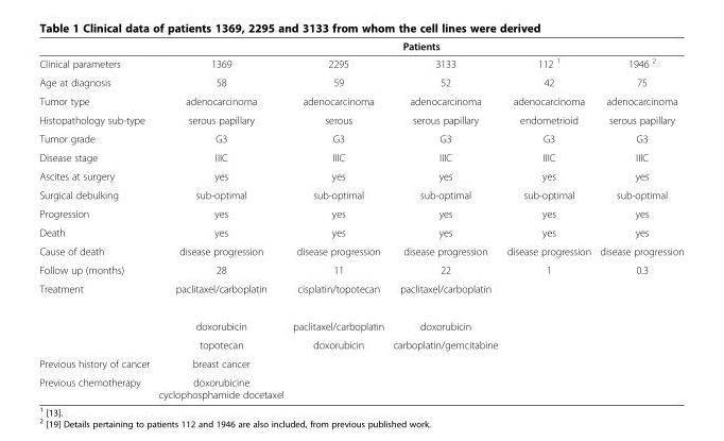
<table><thead><tr><td rowspan="2">Clinical parameters</td><td colspan="5">Patients</td></tr><tr><td>1369</td><td>2295</td><td>3133</td><td>112 <sup>1</sup></td><td>1946 <sup>2</sup></td></tr></thead><tbody><tr><td>Age at diagnosis</td><td>58</td><td>59</td><td>52</td><td>42</td><td>75</td></tr><tr><td>Tumor type</td><td>adenocarcinoma</td><td>adenocarcinoma</td><td>adenocarcinoma</td><td>adenocarcinoma</td><td>adenocarcinoma</td></tr><tr><td>Histopathology sub-type</td><td>serous papillary</td><td>serous</td><td>serous papillary</td><td>endometrioid</td><td>serous papillary</td></tr><tr><td>Tumor grade</td><td>G3</td><td>G3</td><td>G3</td><td>G3</td><td>G3</td></tr><tr><td>Disease stage</td><td>IIIC</td><td>IIIC</td><td>IIIC</td><td>IIIC</td><td>IIIC</td></tr><tr><td>Ascites at surgery</td><td>yes</td><td>yes</td><td>yes</td><td>yes</td><td>yes</td></tr><tr><td>Surgical debulking</td><td>sub-optimal</td><td>sub-optimal</td><td>sub-optimal</td><td>sub-optimal</td><td>sub-optimal</td></tr><tr><td>Progression</td><td>yes</td><td>yes</td><td>yes</td><td>yes</td><td>yes</td></tr><tr><td>Death</td><td>yes</td><td>yes</td><td>yes</td><td>yes</td><td>yes</td></tr><tr><td>Cause of death</td><td>disease progression</td><td>disease progression</td><td>disease progression</td><td>disease progression</td><td>disease progression</td></tr><tr><td>Follow up (months)</td><td>28</td><td>11</td><td>22</td><td>1</td><td>0.3</td></tr><tr><td rowspan="3">Treatment</td><td>paclitaxel/carboplatin</td><td>cisplatin/topotecan</td><td>paclitaxel/carboplatin</td><td></td><td></td></tr><tr><td>doxorubicin</td><td>paclitaxel/carboplatin</td><td>doxorubicin</td><td></td><td></td></tr><tr><td>topotecan</td><td>doxorubicin</td><td>carboplatin/gemcitabine</td><td></td><td></td></tr><tr><td>Previous history of cancer</td><td>breast cancer</td><td></td><td></td><td></td><td></td></tr><tr><td>Previous chemotherapy</td><td>doxorubicine cyclophosphamide docetaxel</td><td></td><td></td><td></td><td></td></tr></tbody></table>